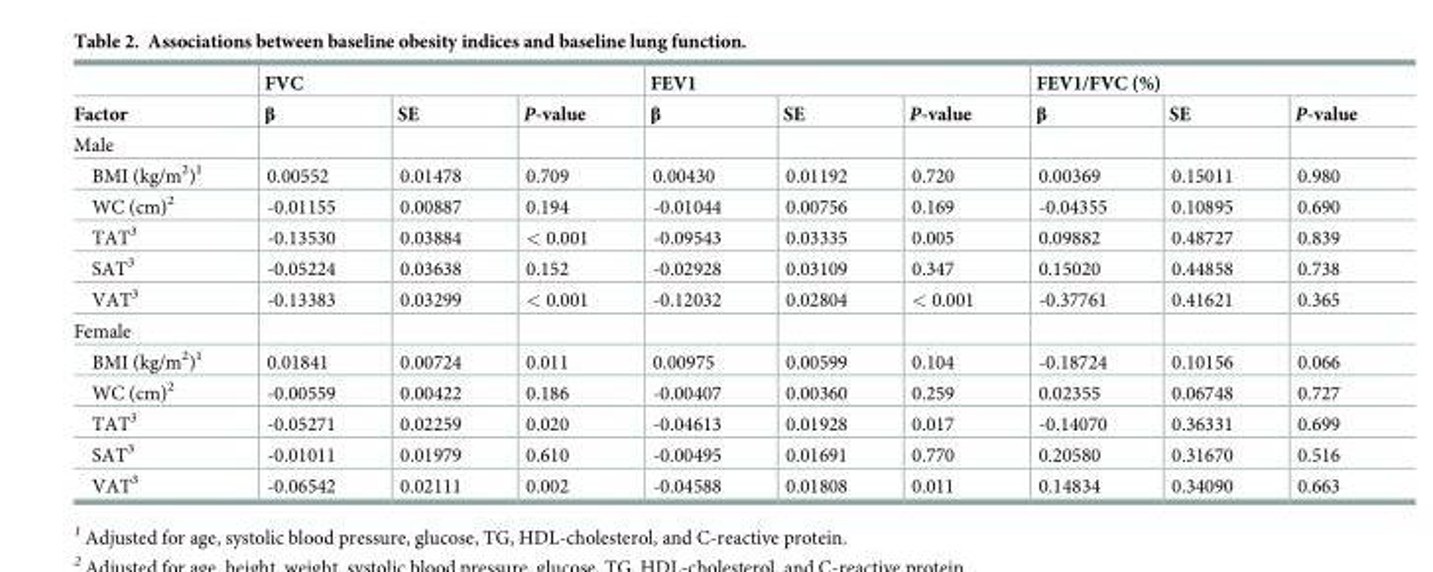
<table><thead><tr><td rowspan="2">Factor</td><td colspan="3">FVC</td><td colspan="3">FEV1</td><td colspan="3">FEV1/FVC (%)</td></tr><tr><td>β</td><td>SE</td><td>P-value</td><td>β</td><td>SE</td><td>P-value</td><td>β</td><td>SE</td><td>P-value</td></tr></thead><tbody><tr><td colspan="10">Male</td></tr><tr><td>BMI (kg/m<sup>2</sup>)<sup>1</sup></td><td>0.00552</td><td>0.01478</td><td>0.709</td><td>0.00430</td><td>0.01192</td><td>0.720</td><td>0.00369</td><td>0.15011</td><td>0.980</td></tr><tr><td>WC (cm)<sup>2</sup></td><td>-0.01155</td><td>0.00887</td><td>0.194</td><td>-0.01044</td><td>0.00756</td><td>0.169</td><td>-0.04355</td><td>0.10895</td><td>0.690</td></tr><tr><td>TAT<sup>3</sup></td><td>-0.13530</td><td>0.03884</td><td>&lt; 0.001</td><td>-0.09543</td><td>0.03335</td><td>0.005</td><td>0.09882</td><td>0.48727</td><td>0.839</td></tr><tr><td>SAT<sup>3</sup></td><td>-0.05224</td><td>0.03638</td><td>0.152</td><td>-0.02928</td><td>0.03109</td><td>0.347</td><td>0.15020</td><td>0.44858</td><td>0.738</td></tr><tr><td>VAT<sup>3</sup></td><td>-0.13383</td><td>0.03299</td><td>&lt; 0.001</td><td>-0.12032</td><td>0.02804</td><td>&lt; 0.001</td><td>-0.37761</td><td>0.41621</td><td>0.365</td></tr><tr><td colspan="10">Female</td></tr><tr><td>BMI (kg/m<sup>2</sup>)<sup>1</sup></td><td>0.01841</td><td>0.00724</td><td>0.011</td><td>0.00975</td><td>0.00599</td><td>0.104</td><td>-0.18724</td><td>0.10156</td><td>0.066</td></tr><tr><td>WC (cm)<sup>2</sup></td><td>-0.00559</td><td>0.00422</td><td>0.186</td><td>-0.00407</td><td>0.00360</td><td>0.259</td><td>0.02355</td><td>0.06748</td><td>0.727</td></tr><tr><td>TAT<sup>3</sup></td><td>-0.05271</td><td>0.02259</td><td>0.020</td><td>-0.04613</td><td>0.01928</td><td>0.017</td><td>-0.14070</td><td>0.36331</td><td>0.699</td></tr><tr><td>SAT<sup>3</sup></td><td>-0.01011</td><td>0.01979</td><td>0.610</td><td>-0.00495</td><td>0.01691</td><td>0.770</td><td>0.20580</td><td>0.31670</td><td>0.516</td></tr><tr><td>VAT<sup>3</sup></td><td>-0.06542</td><td>0.02111</td><td>0.002</td><td>-0.04588</td><td>0.01808</td><td>0.011</td><td>0.14834</td><td>0.34090</td><td>0.663</td></tr></tbody></table>